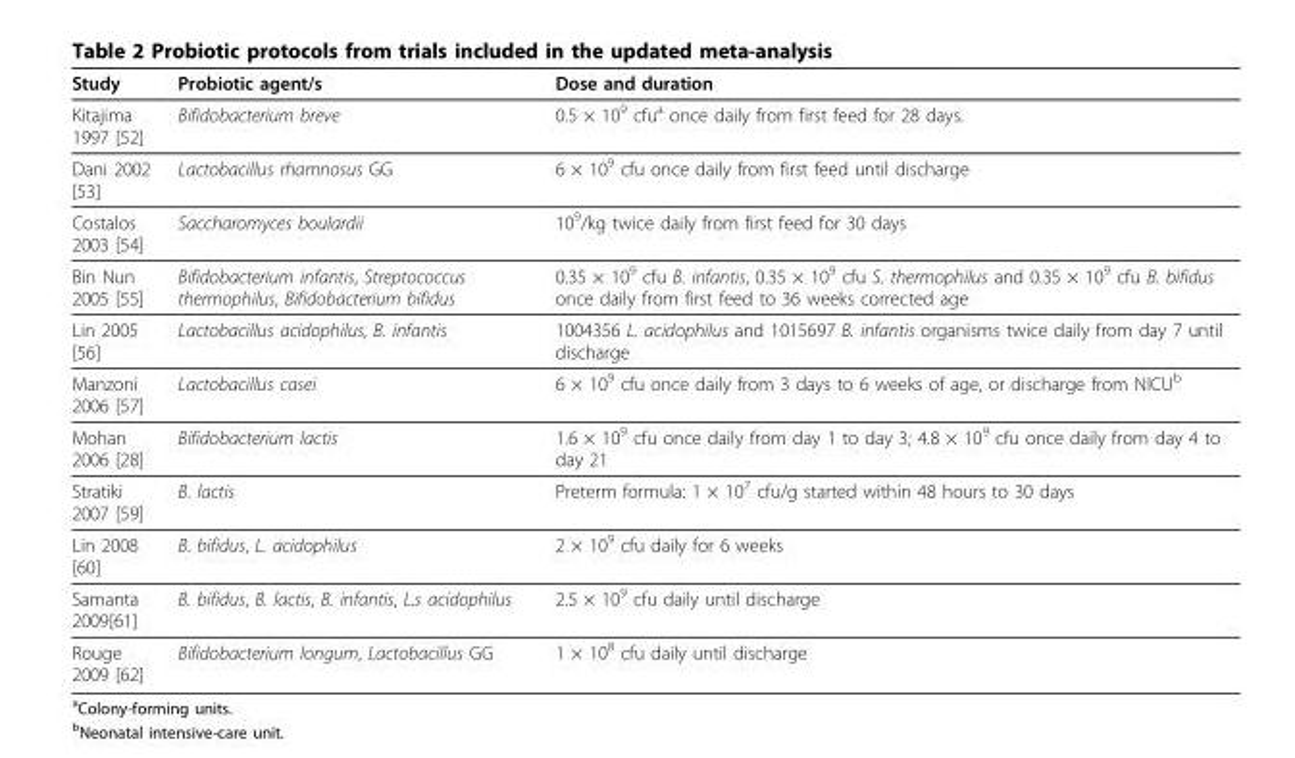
<table><thead><tr><td>Study</td><td>Probiotic agent/s</td><td>Dose and duration</td></tr></thead><tbody><tr><td>Kitajima 1997 [52]</td><td>Bifidobacterium breve</td><td>0.5 × 10<sup>9</sup> cfu<sup>a</sup> once daily from first feed for 28 days.</td></tr><tr><td>Dani 2002 [53]</td><td>Lactobacillus rhamnosus GG</td><td>6 × 10<sup>9</sup> cfu once daily from first feed until discharge</td></tr><tr><td>Costalos 2003 [54]</td><td>Saccharomyces boulardii</td><td>10<sup>9</sup>/kg twice daily from first feed for 30 days</td></tr><tr><td>Bin Nun 2005 [55]</td><td>Bifidobacterium infantis, Streptococcus thermophilus, Bifidobacterium bifidus</td><td>0.35 × 10<sup>9</sup> cfu B. infantis, 0.35 × 10<sup>9</sup> cfu S. thermophilus and 0.35 × 10<sup>9</sup> cfu B. bifidus once daily from first feed to 36 weeks corrected age</td></tr><tr><td>Lin 2005 [56]</td><td>Lactobacillus acidophilus, B. infantis</td><td>1004356 L. acidophilus and 1015697 B. infantis organisms twice daily from day 7 until discharge</td></tr><tr><td>Manzoni 2006 [57]</td><td>Lactobacillus casei</td><td>6 × 10<sup>9</sup> cfu once daily from 3 days to 6 weeks of age, or discharge from NICU<sup>b</sup></td></tr><tr><td>Mohan 2006 [28]</td><td>Bifidobacterium lactis</td><td>1.6 × 10<sup>9</sup> cfu once daily from day 1 to day 3; 4.8 × 10<sup>9</sup> cfu once daily from day 4 to day 21</td></tr><tr><td>Stratiki 2007 [59]</td><td>B. lactis</td><td>Preterm formula: 1 × 10<sup>7</sup> cfu/g started within 48 hours to 30 days</td></tr><tr><td>Lin 2008 [60]</td><td>B. bifidus, L. acidophilus</td><td>2 × 10<sup>9</sup> cfu daily for 6 weeks</td></tr><tr><td>Samanta 2009[61]</td><td>B. bifidus, B. lactis, B. infantis, L.s acidophilus</td><td>2.5 × 10<sup>9</sup> cfu daily until discharge</td></tr><tr><td>Rouge 2009 [62]</td><td>Bifidobacterium longum, Lactobacillus GG</td><td>1 × 10<sup>8</sup> cfu daily until discharge</td></tr></tbody></table>